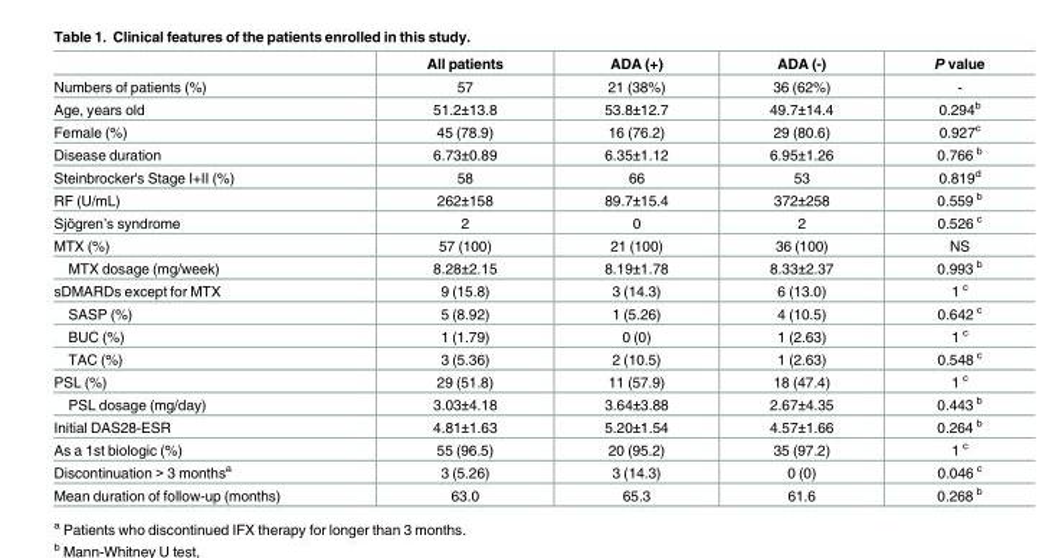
<table><thead><tr><td></td><td>All patients</td><td>ADA (+)</td><td>ADA (-)</td><td>P value</td></tr></thead><tbody><tr><td>Numbers of patients (%)</td><td>57</td><td>21 (38%)</td><td>36 (62%)</td><td>-</td></tr><tr><td>Age, years old</td><td>51.2±13.8</td><td>53.8±12.7</td><td>49.7±14.4</td><td>0.294<sup>b</sup></td></tr><tr><td>Female (%)</td><td>45 (78.9)</td><td>16 (76.2)</td><td>29 (80.6)</td><td>0.927<sup>c</sup></td></tr><tr><td>Disease duration</td><td>6.73±0.89</td><td>6.35±1.12</td><td>6.95±1.26</td><td>0.766 <sup>b</sup></td></tr><tr><td>Steinbrocker&#x27;s Stage I+II (%)</td><td>58</td><td>66</td><td>53</td><td>0.819<sup>d</sup></td></tr><tr><td>RF (U/mL)</td><td>262±158</td><td>89.7±15.4</td><td>372±258</td><td>0.559 <sup>b</sup></td></tr><tr><td>Sjögren’s syndrome</td><td>2</td><td>0</td><td>2</td><td>0.526 <sup>c</sup></td></tr><tr><td>MTX (%)</td><td>57 (100)</td><td>21 (100)</td><td>36 (100)</td><td>NS</td></tr><tr><td>MTX dosage (mg/week)</td><td>8.28±2.15</td><td>8.19±1.78</td><td>8.33±2.37</td><td>0.993 <sup>b</sup></td></tr><tr><td>sDMARDs except for MTX</td><td>9 (15.8)</td><td>3 (14.3)</td><td>6 (13.0)</td><td>1 <sup>c</sup></td></tr><tr><td>SASP (%)</td><td>5 (8.92)</td><td>1 (5.26)</td><td>4 (10.5)</td><td>0.642 <sup>c</sup></td></tr><tr><td>BUC (%)</td><td>1 (1.79)</td><td>0 (0)</td><td>1 (2.63)</td><td>1 <sup>c</sup></td></tr><tr><td>TAC (%)</td><td>3 (5.36)</td><td>2 (10.5)</td><td>1 (2.63)</td><td>0.548 <sup>c</sup></td></tr><tr><td>PSL (%)</td><td>29 (51.8)</td><td>11 (57.9)</td><td>18 (47.4)</td><td>1 <sup>c</sup></td></tr><tr><td>PSL dosage (mg/day)</td><td>3.03±4.18</td><td>3.64±3.88</td><td>2.67±4.35</td><td>0.443 <sup>b</sup></td></tr><tr><td>Initial DAS28-ESR</td><td>4.81±1.63</td><td>5.20±1.54</td><td>4.57±1.66</td><td>0.264 <sup>b</sup></td></tr><tr><td>As a 1st biologic (%)</td><td>55 (96.5)</td><td>20 (95.2)</td><td>35 (97.2)</td><td>1 <sup>c</sup></td></tr><tr><td>Discontinuation &gt; 3 months<sup>a</sup></td><td>3 (5.26)</td><td>3 (14.3)</td><td>0 (0)</td><td>0.046 <sup>c</sup></td></tr><tr><td>Mean duration of follow-up (months)</td><td>63.0</td><td>65.3</td><td>61.6</td><td>0.268 <sup>b</sup></td></tr></tbody></table>